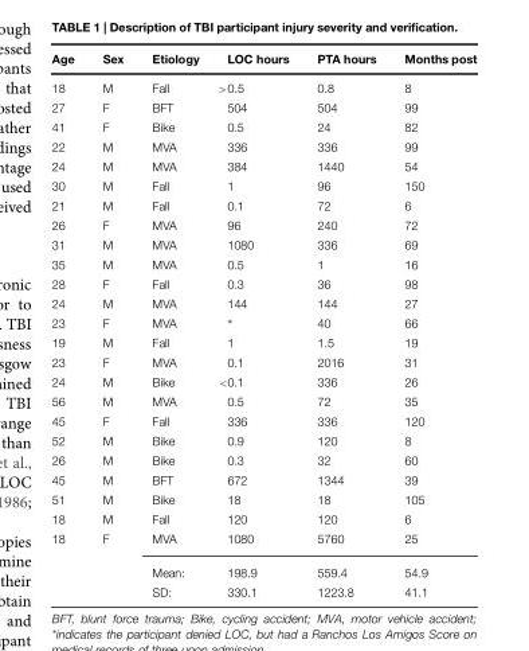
<table><thead><tr><td>Age</td><td>Sex</td><td>Etiology</td><td>LOC hours</td><td>PTA hours</td><td>Months post</td></tr></thead><tbody><tr><td>18</td><td>M</td><td>Fall</td><td>&gt;0.5</td><td>0.8</td><td>8</td></tr><tr><td>27</td><td>F</td><td>BFT</td><td>504</td><td>504</td><td>99</td></tr><tr><td>41</td><td>F</td><td>Bike</td><td>0.5</td><td>24</td><td>82</td></tr><tr><td>22</td><td>M</td><td>MVA</td><td>336</td><td>336</td><td>99</td></tr><tr><td>24</td><td>M</td><td>MVA</td><td>384</td><td>1440</td><td>54</td></tr><tr><td>30</td><td>M</td><td>Fall</td><td>1</td><td>96</td><td>150</td></tr><tr><td>21</td><td>M</td><td>Fall</td><td>0.1</td><td>72</td><td>6</td></tr><tr><td>26</td><td>F</td><td>MVA</td><td>96</td><td>240</td><td>72</td></tr><tr><td>31</td><td>M</td><td>MVA</td><td>1080</td><td>336</td><td>69</td></tr><tr><td>35</td><td>M</td><td>MVA</td><td>0.5</td><td>1</td><td>16</td></tr><tr><td>28</td><td>F</td><td>Fall</td><td>0.3</td><td>36</td><td>98</td></tr><tr><td>24</td><td>M</td><td>MVA</td><td>144</td><td>144</td><td>27</td></tr><tr><td>23</td><td>F</td><td>MVA</td><td>∗</td><td>40</td><td>66</td></tr><tr><td>19</td><td>M</td><td>Fall</td><td>1</td><td>1.5</td><td>19</td></tr><tr><td>23</td><td>F</td><td>MVA</td><td>0.1</td><td>2016</td><td>31</td></tr><tr><td>24</td><td>M</td><td>Bike</td><td>&lt;0.1</td><td>336</td><td>26</td></tr><tr><td>56</td><td>M</td><td>MVA</td><td>0.5</td><td>72</td><td>35</td></tr><tr><td>45</td><td>F</td><td>Fall</td><td>336</td><td>336</td><td>120</td></tr><tr><td>52</td><td>M</td><td>Bike</td><td>0.9</td><td>120</td><td>8</td></tr><tr><td>26</td><td>M</td><td>Bike</td><td>0.3</td><td>32</td><td>60</td></tr><tr><td>45</td><td>M</td><td>BFT</td><td>672</td><td>1344</td><td>39</td></tr><tr><td>51</td><td>M</td><td>Bike</td><td>18</td><td>18</td><td>105</td></tr><tr><td>18</td><td>M</td><td>Fall</td><td>120</td><td>120</td><td>6</td></tr><tr><td rowspan="3">18</td><td>F</td><td>MVA</td><td>1080</td><td>5760</td><td>25</td></tr><tr><td></td><td>Mean:</td><td>198.9</td><td>559.4</td><td>54.9</td></tr><tr><td></td><td>SD:</td><td>330.1</td><td>1223.8</td><td>41.1</td></tr></tbody></table>